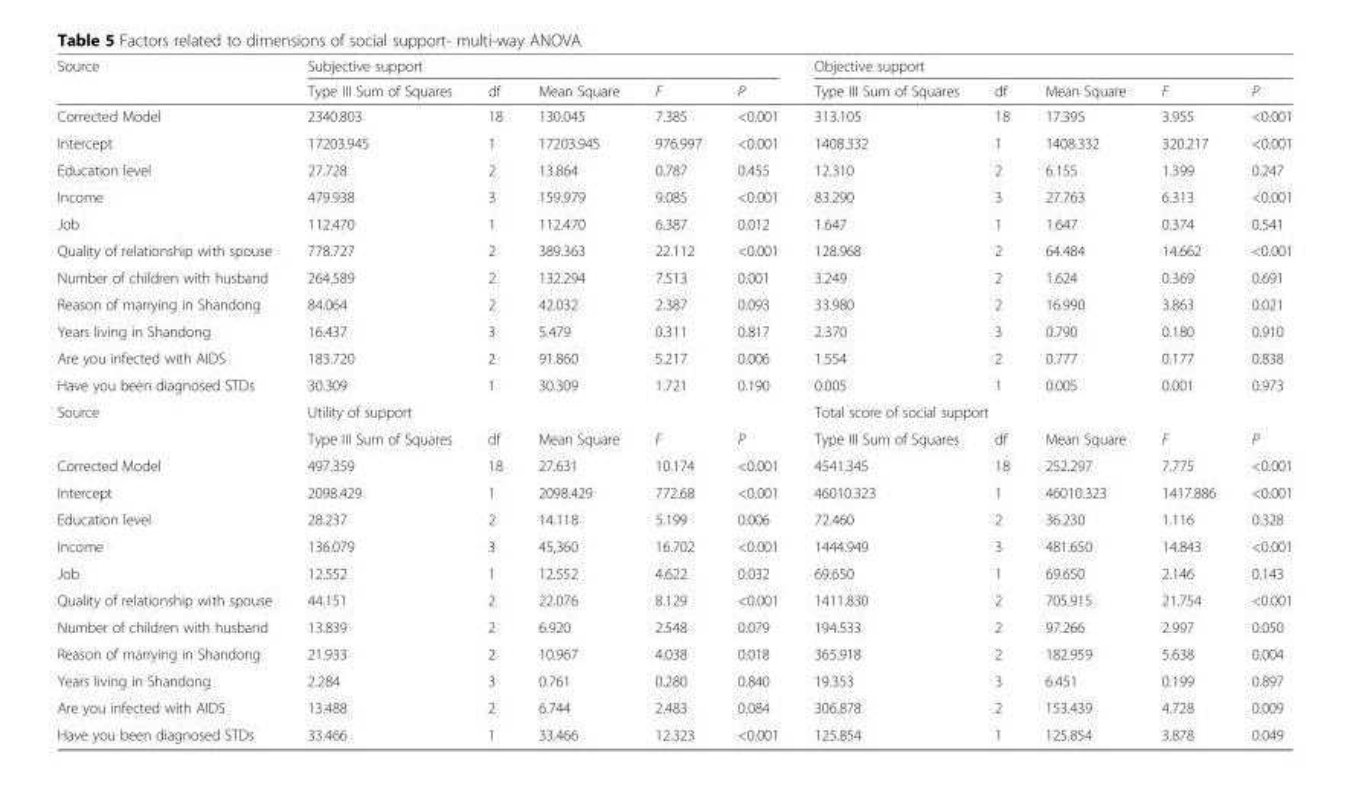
<table><thead><tr><td rowspan="2">Source</td><td colspan="5">Subjective support</td><td colspan="5">Objective support</td></tr><tr><td>Type III Sum of Squares</td><td>df</td><td>Mean Square</td><td>F</td><td>P</td><td>Type III Sum of Squares</td><td>df</td><td>Mean Square</td><td>F</td><td>P</td></tr></thead><tbody><tr><td>Corrected Model</td><td>2340.803</td><td>18</td><td>130.045</td><td>7.385</td><td>&lt;0.001</td><td>313.105</td><td>18</td><td>17.395</td><td>3.955</td><td>&lt;0.001</td></tr><tr><td>Intercept</td><td>17203.945</td><td>1</td><td>17203.945</td><td>976.997</td><td>&lt;0.001</td><td>1408.332</td><td>1</td><td>1408.332</td><td>320.217</td><td>&lt;0.001</td></tr><tr><td>Education level</td><td>27.728</td><td>2</td><td>13.864</td><td>0.787</td><td>0.455</td><td>12.310</td><td>2</td><td>6.155</td><td>1.399</td><td>0.247</td></tr><tr><td>Income</td><td>479.938</td><td>3</td><td>159.979</td><td>9.085</td><td>&lt;0.001</td><td>83.290</td><td>3</td><td>27.763</td><td>6.313</td><td>&lt;0.001</td></tr><tr><td>Job</td><td>112.470</td><td>1</td><td>112.470</td><td>6.387</td><td>0.012</td><td>1.647</td><td>1</td><td>1.647</td><td>0.374</td><td>0.541</td></tr><tr><td>Quality of relationship with spouse</td><td>778.727</td><td>2</td><td>389.363</td><td>22.112</td><td>&lt;0.001</td><td>128.968</td><td>2</td><td>64.484</td><td>14.662</td><td>&lt;0.001</td></tr><tr><td>Number of children with husband</td><td>264.589</td><td>2</td><td>132.294</td><td>7.513</td><td>0.001</td><td>3.249</td><td>2</td><td>1.624</td><td>0.369</td><td>0.691</td></tr><tr><td>Reason of marrying in Shandong</td><td>84.064</td><td>2</td><td>42.032</td><td>2.387</td><td>0.093</td><td>33.980</td><td>2</td><td>16.990</td><td>3.863</td><td>0.021</td></tr><tr><td>Years living in Shandong</td><td>16.437</td><td>3</td><td>5.479</td><td>0.311</td><td>0.817</td><td>2.370</td><td>3</td><td>0.790</td><td>0.180</td><td>0.910</td></tr><tr><td>Are you infected with AIDS</td><td>183.720</td><td>2</td><td>91.860</td><td>5.217</td><td>0.006</td><td>1.554</td><td>2</td><td>0.777</td><td>0.177</td><td>0.838</td></tr><tr><td>Have you been diagnosed STDs</td><td>30.309</td><td>1</td><td>30.309</td><td>1.721</td><td>0.190</td><td>0.005</td><td>1</td><td>0.005</td><td>0.001</td><td>0.973</td></tr><tr><td rowspan="2">Source</td><td colspan="5">Utility of support</td><td colspan="5">Total score of social support</td></tr><tr><td>Type III Sum of Squares</td><td>df</td><td>Mean Square</td><td>F</td><td>P</td><td>Type III Sum of Squares</td><td>df</td><td>Mean Square</td><td>F</td><td>P</td></tr><tr><td>Corrected Model</td><td>497.359</td><td>18</td><td>27.631</td><td>10.174</td><td>&lt;0.001</td><td>4541.345</td><td>18</td><td>252.297</td><td>7.775</td><td>&lt;0.001</td></tr><tr><td>Intercept</td><td>2098.429</td><td>1</td><td>2098.429</td><td>772.68</td><td>&lt;0.001</td><td>46010.323</td><td>1</td><td>46010.323</td><td>1417.886</td><td>&lt;0.001</td></tr><tr><td>Education level</td><td>28.237</td><td>2</td><td>14.118</td><td>5.199</td><td>0.006</td><td>72.460</td><td>2</td><td>36.230</td><td>1.116</td><td>0.328</td></tr><tr><td>Income</td><td>136.079</td><td>3</td><td>45,360</td><td>16.702</td><td>&lt;0.001</td><td>1444.949</td><td>3</td><td>481.650</td><td>14.843</td><td>&lt;0.001</td></tr><tr><td>Job</td><td>12.552</td><td>1</td><td>12.552</td><td>4.622</td><td>0.032</td><td>69.650</td><td>1</td><td>69.650</td><td>2.146</td><td>0.143</td></tr><tr><td>Quality of relationship with spouse</td><td>44.151</td><td>2</td><td>22.076</td><td>8.129</td><td>&lt;0.001</td><td>1411.830</td><td>2</td><td>705.915</td><td>21.754</td><td>&lt;0.001</td></tr><tr><td>Number of children with husband</td><td>13.839</td><td>2</td><td>6.920</td><td>2.548</td><td>0.079</td><td>194.533</td><td>2</td><td>97.266</td><td>2.997</td><td>0.050</td></tr><tr><td>Reason of marrying in Shandong</td><td>21.933</td><td>2</td><td>10.967</td><td>4.038</td><td>0.018</td><td>365.918</td><td>2</td><td>182.959</td><td>5.638</td><td>0.004</td></tr><tr><td>Years living in Shandong</td><td>2.284</td><td>3</td><td>0.761</td><td>0.280</td><td>0.840</td><td>19.353</td><td>3</td><td>6.451</td><td>0.199</td><td>0.897</td></tr><tr><td>Are you infected with AIDS</td><td>13.488</td><td>2</td><td>6.744</td><td>2.483</td><td>0.084</td><td>306.878</td><td>2</td><td>153.439</td><td>4.728</td><td>0.009</td></tr><tr><td>Have you been diagnosed STDs</td><td>33.466</td><td>1</td><td>33.466</td><td>12.323</td><td>&lt;0.001</td><td>125.854</td><td>1</td><td>125.854</td><td>3.878</td><td>0.049</td></tr></tbody></table>